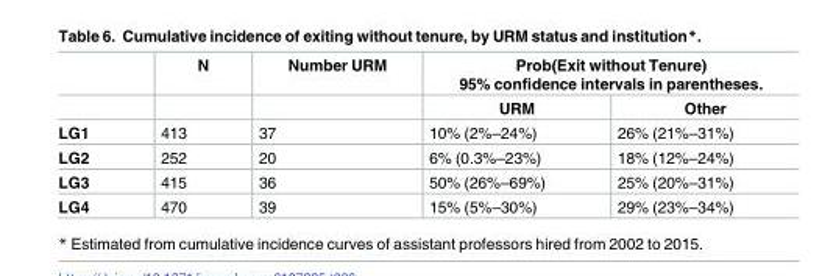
<table><thead><tr><td rowspan="2"></td><td rowspan="2">N</td><td rowspan="2">Number URM</td><td colspan="2">Prob(Exit without Tenure) 95% confidence intervals in parentheses.</td></tr><tr><td>URM</td><td>Other</td></tr></thead><tbody><tr><td>LG1</td><td>413</td><td>37</td><td>10% (2%–24%)</td><td>26% (21%–31%)</td></tr><tr><td>LG2</td><td>252</td><td>20</td><td>6% (0.3%–23%)</td><td>18% (12%–24%)</td></tr><tr><td>LG3</td><td>415</td><td>36</td><td>50% (26%–69%)</td><td>25% (20%–31%)</td></tr><tr><td>LG4</td><td>470</td><td>39</td><td>15% (5%–30%)</td><td>29% (23%–34%)</td></tr></tbody></table>